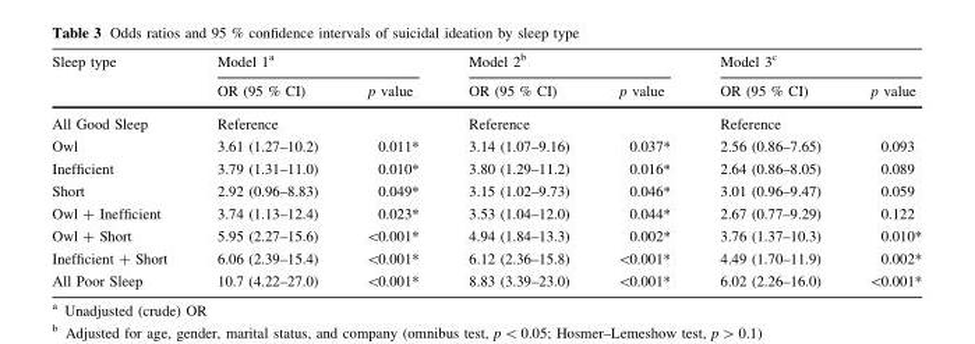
<table><thead><tr><td rowspan="2">Sleep type</td><td colspan="2">Model 1<sup>a</sup></td><td colspan="2">Model 2<sup>b</sup></td><td colspan="2">Model 3<sup>c</sup></td></tr><tr><td>OR (95 % CI)</td><td>p value</td><td>OR (95 % CI)</td><td>p value</td><td>OR (95 % CI)</td><td>p value</td></tr></thead><tbody><tr><td>All Good Sleep</td><td colspan="2">Reference</td><td colspan="2">Reference</td><td colspan="2">Reference</td></tr><tr><td>Owl</td><td>3.61 (1.27–10.2)</td><td>0.011*</td><td>3.14 (1.07–9.16)</td><td>0.037*</td><td>2.56 (0.86–7.65)</td><td>0.093</td></tr><tr><td>Inefficient</td><td>3.79 (1.31–11.0)</td><td>0.010*</td><td>3.80 (1.29–11.2)</td><td>0.016*</td><td>2.64 (0.86–8.05)</td><td>0.089</td></tr><tr><td>Short</td><td>2.92 (0.96–8.83)</td><td>0.049*</td><td>3.15 (1.02–9.73)</td><td>0.046*</td><td>3.01 (0.96–9.47)</td><td>0.059</td></tr><tr><td>Owl + Inefficient</td><td>3.74 (1.13–12.4)</td><td>0.023*</td><td>3.53 (1.04–12.0)</td><td>0.044*</td><td>2.67 (0.77–9.29)</td><td>0.122</td></tr><tr><td>Owl + Short</td><td>5.95 (2.27–15.6)</td><td>&lt;0.001*</td><td>4.94 (1.84–13.3)</td><td>0.002*</td><td>3.76 (1.37–10.3)</td><td>0.010*</td></tr><tr><td>Inefficient + Short</td><td>6.06 (2.39–15.4)</td><td>&lt;0.001*</td><td>6.12 (2.36–15.8)</td><td>&lt;0.001*</td><td>4.49 (1.70–11.9)</td><td>0.002*</td></tr><tr><td>All Poor Sleep</td><td>10.7 (4.22–27.0)</td><td>&lt;0.001*</td><td>8.83 (3.39–23.0)</td><td>&lt;0.001*</td><td>6.02 (2.26–16.0)</td><td>&lt;0.001*</td></tr></tbody></table>